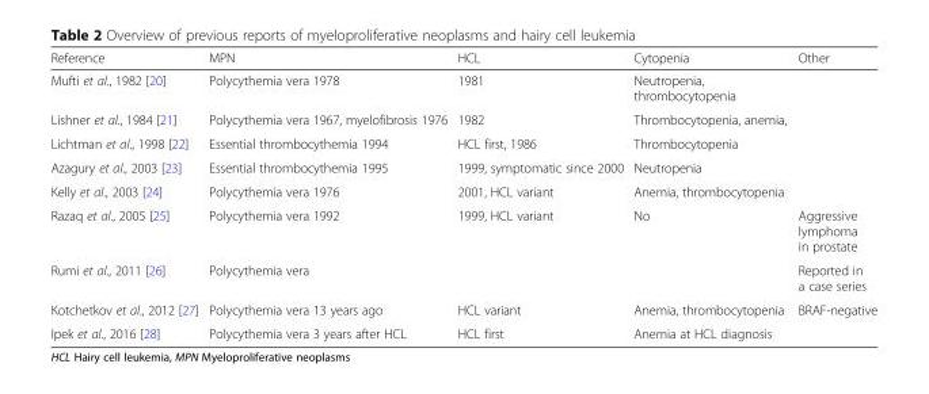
<table><thead><tr><td>Reference</td><td>MPN</td><td>HCL</td><td>Cytopenia</td><td>Other</td></tr></thead><tbody><tr><td>Mufti et al., 1982 [20]</td><td>Polycythemia vera 1978</td><td>1981</td><td>Neutropenia, thrombocytopenia</td><td></td></tr><tr><td>Lishner et al., 1984 [21]</td><td>Polycythemia vera 1967, myelofibrosis 1976</td><td>1982</td><td>Thrombocytopenia, anemia,</td><td></td></tr><tr><td>Lichtman et al., 1998 [22]</td><td>Essential thrombocythemia 1994</td><td>HCL first, 1986</td><td>Thrombocytopenia</td><td></td></tr><tr><td>Azagury et al., 2003 [23]</td><td>Essential thrombocythemia 1995</td><td>1999, symptomatic since 2000</td><td>Neutropenia</td><td></td></tr><tr><td>Kelly et al., 2003 [24]</td><td>Polycythemia vera 1976</td><td>2001, HCL variant</td><td>Anemia, thrombocytopenia</td><td></td></tr><tr><td>Razaq et al., 2005 [25]</td><td>Polycythemia vera 1992</td><td>1999, HCL variant</td><td>No</td><td>Aggressive lymphoma in prostate</td></tr><tr><td>Rumi et al., 2011 [26]</td><td>Polycythemia vera</td><td></td><td></td><td>Reported in a case series</td></tr><tr><td>Kotchetkov et al., 2012 [27]</td><td>Polycythemia vera 13 years ago</td><td>HCL variant</td><td>Anemia, thrombocytopenia</td><td>BRAF-negative</td></tr><tr><td>Ipek et al., 2016 [28]</td><td>Polycythemia vera 3 years after HCL</td><td>HCL first</td><td>Anemia at HCL diagnosis</td><td></td></tr></tbody></table>